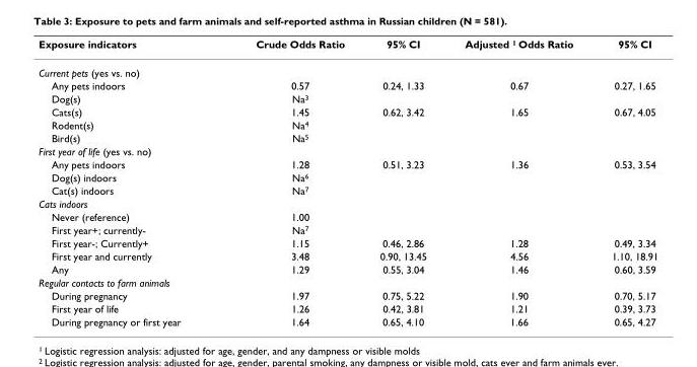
<table><thead><tr><td>Exposure indicators</td><td>Crude Odds Ratio</td><td>95% CI</td><td>Adjusted 1 Odds Ratio</td><td>95% CI</td></tr></thead><tbody><tr><td colspan="5">Current pets (yes vs. no)</td></tr><tr><td>Any pets indoors</td><td>0.57</td><td>0.24, 1.33</td><td>0.67</td><td>0.27, 1.65</td></tr><tr><td>Dog(s)</td><td>Na<sup>3</sup></td><td></td><td></td><td></td></tr><tr><td>Cats(s)</td><td>1.45</td><td>0.62, 3.42</td><td>1.65</td><td>0.67, 4.05</td></tr><tr><td>Rodent(s)</td><td>Na<sup>4</sup></td><td></td><td></td><td></td></tr><tr><td>Bird(s)</td><td>Na<sup>5</sup></td><td></td><td></td><td></td></tr><tr><td colspan="5">First year of life (yes vs. no)</td></tr><tr><td>Any pets indoors</td><td>1.28</td><td>0.51, 3.23</td><td>1.36</td><td>0.53, 3.54</td></tr><tr><td>Dog(s) indoors</td><td>Na<sup>6</sup></td><td></td><td></td><td></td></tr><tr><td>Cat(s) indoors</td><td>Na<sup>7</sup></td><td></td><td></td><td></td></tr><tr><td colspan="5">Cats indoors</td></tr><tr><td>Never (reference)</td><td>1.00</td><td></td><td></td><td></td></tr><tr><td>First year+; currently-</td><td>Na<sup>7</sup></td><td></td><td></td><td></td></tr><tr><td>First year-; Currently+</td><td>1.15</td><td>0.46, 2.86</td><td>1.28</td><td>0.49, 3.34</td></tr><tr><td>First year and currently</td><td>3.48</td><td>0.90, 13.45</td><td>4.56</td><td>1.10, 18.91</td></tr><tr><td>Any</td><td>1.29</td><td>0.55, 3.04</td><td>1.46</td><td>0.60, 3.59</td></tr><tr><td colspan="5">Regular contacts to farm animals</td></tr><tr><td>During pregnancy</td><td>1.97</td><td>0.75, 5.22</td><td>1.90</td><td>0.70, 5.17</td></tr><tr><td>First year of life</td><td>1.26</td><td>0.42, 3.81</td><td>1.21</td><td>0.39, 3.73</td></tr><tr><td>During pregnancy or first year</td><td>1.64</td><td>0.65, 4.10</td><td>1.66</td><td>0.65, 4.27</td></tr></tbody></table>